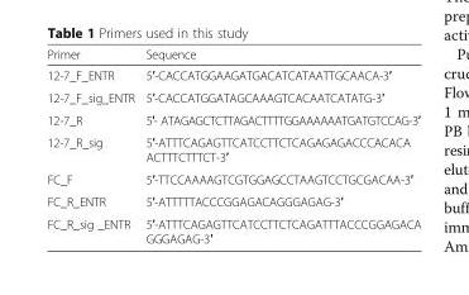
<table><thead><tr><td>Primer</td><td>Sequence</td></tr></thead><tbody><tr><td>12-7_F_ENTR</td><td>5′-CACCATGGAAGATGACATCATAATTGCAACA-3′</td></tr><tr><td>12-7_F_sig_ENTR</td><td>5′-CACCATGGATAGCAAAGTCACAATCATATG-3′</td></tr><tr><td>12-7_R</td><td>5′- ATAGAGCTCTTAGACTTTTGGAAAAAATGATGTCCAG-3′</td></tr><tr><td>12-7_R_sig</td><td>5′-ATTTCAGAGTTCATCCTTCTCAGAGAGACCCACACA ACTTTCTTTCT-3′</td></tr><tr><td>FC_F</td><td>5′-TTCCAAAAGTCGTGGAGCCTAAGTCCTGCGACAA-3′</td></tr><tr><td>FC_R_ENTR</td><td>5′-ATTTTTACCCGGAGACAGGGAGAG-3′</td></tr><tr><td>FC_R_sig _ENTR</td><td>5′-ATTTCAGAGTTCATCCTTCTCAGATTTACCCGGAGACA GGGAGAG-3′</td></tr></tbody></table>